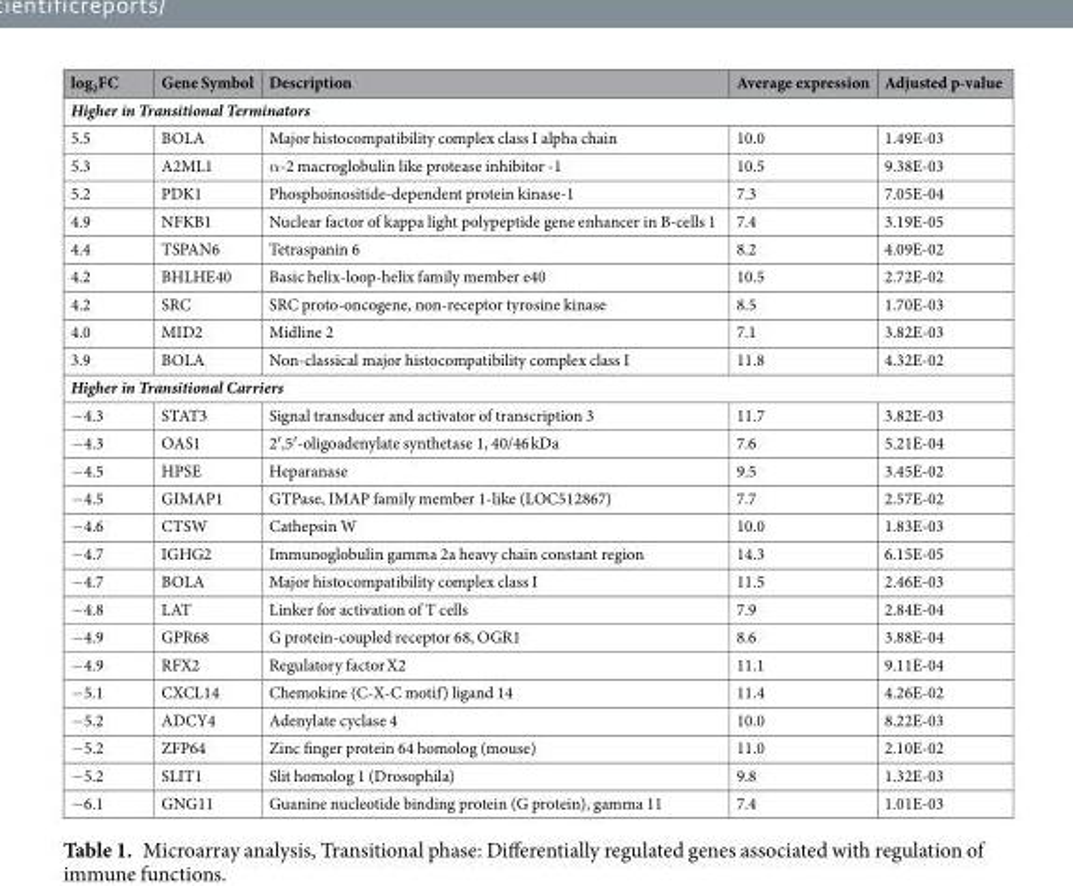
<table><thead><tr><td>log<sub>2</sub>FC</td><td>Gene Symbol</td><td>Description</td><td>Average expression</td><td>Adjusted p-value</td></tr></thead><tbody><tr><td colspan="5">Higher in Transitional Terminators</td></tr><tr><td>5.5</td><td>BOLA</td><td>Major histocompatibility complex class I alpha chain</td><td>10.0</td><td>1.49E-03</td></tr><tr><td>5.3</td><td>A2ML1</td><td>α-2 macroglobulin like protease inhibitor -1</td><td>10.5</td><td>9.38E-03</td></tr><tr><td>5.2</td><td>PDK1</td><td>Phosphoinositide-dependent protein kinase-1</td><td>7.3</td><td>7.05E-04</td></tr><tr><td>4.9</td><td>NFKB1</td><td>Nuclear factor of kappa light polypeptide gene enhancer in B-cells 1</td><td>7.4</td><td>3.19E-05</td></tr><tr><td>4.4</td><td>TSPAN6</td><td>Tetraspanin 6</td><td>8.2</td><td>4.09E-02</td></tr><tr><td>4.2</td><td>BHLHE40</td><td>Basic helix-loop-helix family member e40</td><td>10.5</td><td>2.72E-02</td></tr><tr><td>4.2</td><td>SRC</td><td>SRC proto-oncogene, non-receptor tyrosine kinase</td><td>8.5</td><td>1.70E-03</td></tr><tr><td>4.0</td><td>MID2</td><td>Midline 2</td><td>7.1</td><td>3.82E-03</td></tr><tr><td>3.9</td><td>BOLA</td><td>Non-classical major histocompatibility complex class I</td><td>11.8</td><td>4.32E-02</td></tr><tr><td colspan="5">Higher in Transitional Carriers</td></tr><tr><td>−4.3</td><td>STAT3</td><td>Signal transducer and activator of transcription 3</td><td>11.7</td><td>3.82E-03</td></tr><tr><td>−4.3</td><td>OAS1</td><td>2′,5′-oligoadenylate synthetase 1, 40/46 kDa</td><td>7.6</td><td>5.21E-04</td></tr><tr><td>−4.5</td><td>HPSE</td><td>Heparanase</td><td>9.5</td><td>3.45E-02</td></tr><tr><td>−4.5</td><td>GIMAP1</td><td>GTPase, IMAP family member 1-like (LOC512867)</td><td>7.7</td><td>2.57E-02</td></tr><tr><td>−4.6</td><td>CTSW</td><td>Cathepsin W</td><td>10.0</td><td>1.83E-03</td></tr><tr><td>−4.7</td><td>IGHG2</td><td>Immunoglobulin gamma 2a heavy chain constant region</td><td>14.3</td><td>6.15E-05</td></tr><tr><td>−4.7</td><td>BOLA</td><td>Major histocompatibility complex class I</td><td>11.5</td><td>2.46E-03</td></tr><tr><td>−4.8</td><td>LAT</td><td>Linker for activation of T cells</td><td>7.9</td><td>2.84E-04</td></tr><tr><td>−4.9</td><td>GPR68</td><td>G protein-coupled receptor 68, OGR1</td><td>8.6</td><td>3.88E-04</td></tr><tr><td>−4.9</td><td>RFX2</td><td>Regulatory factor X2</td><td>11.1</td><td>9.11E-04</td></tr><tr><td>−5.1</td><td>CXCL14</td><td>Chemokine (C-X-C motif) ligand 14</td><td>11.4</td><td>4.26E-02</td></tr><tr><td>−5.2</td><td>ADCY4</td><td>Adenylate cyclase 4</td><td>10.0</td><td>8.22E-03</td></tr><tr><td>−5.2</td><td>ZFP64</td><td>Zinc finger protein 64 homolog (mouse)</td><td>11.0</td><td>2.10E-02</td></tr><tr><td>−5.2</td><td>SLIT1</td><td>Slit homolog 1 (Drosophila)</td><td>9.8</td><td>1.32E-03</td></tr><tr><td>−6.1</td><td>GNG11</td><td>Guanine nucleotide binding protein (G protein), gamma 11</td><td>7.4</td><td>1.01E-03</td></tr></tbody></table>